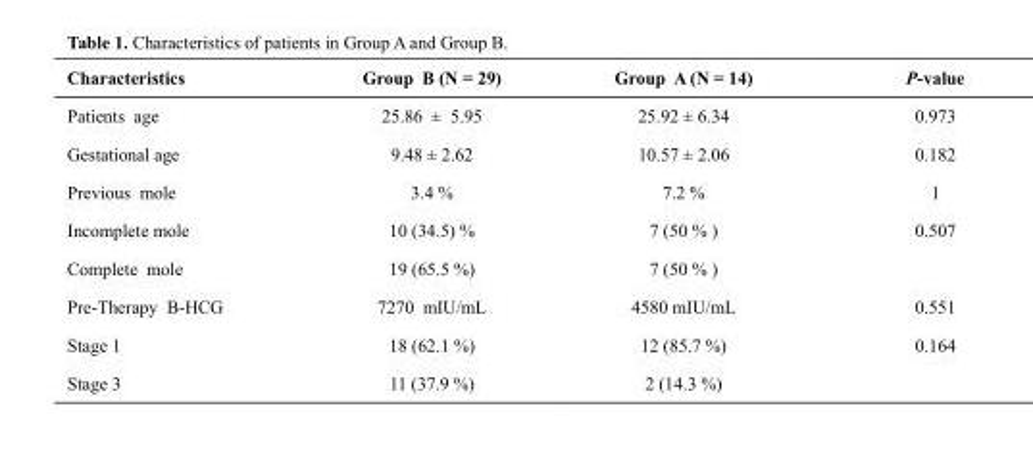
<table><thead><tr><td>Characteristics</td><td>Group B (N = 29)</td><td>Group A (N = 14)</td><td>P-value</td></tr></thead><tbody><tr><td>Patients age</td><td>25.86 ± 5.95</td><td>25.92 ± 6.34</td><td>0.973</td></tr><tr><td>Gestational age</td><td>9.48 ± 2.62</td><td>10.57 ± 2.06</td><td>0.182</td></tr><tr><td>Previous mole</td><td>3.4 %</td><td>7.2 %</td><td>1</td></tr><tr><td>Incomplete mole Complete mole</td><td>10 (34.5) % 19 (65.5 %)</td><td>7 (50 % ) 7 (50 % )</td><td>0.507</td></tr><tr><td>Pre-Therapy B-HCG</td><td>7270 mIU/mL</td><td>4580 mIU/mL</td><td>0.551</td></tr><tr><td>Stage 1</td><td>18 (62.1 %)</td><td>12 (85.7 %)</td><td rowspan="2">0.164</td></tr><tr><td>Stage 3</td><td>11 (37.9 %)</td><td>2 (14.3 %)</td></tr></tbody></table>